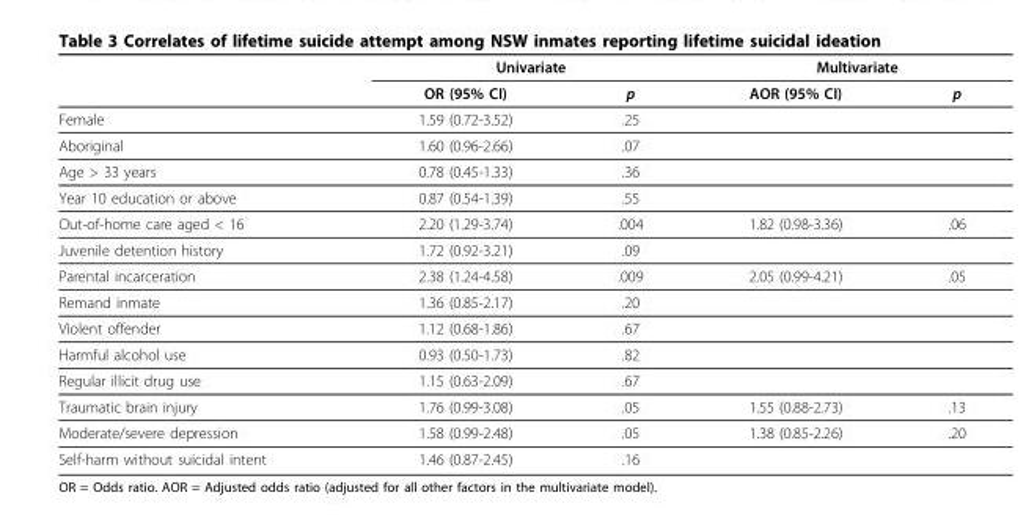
<table><thead><tr><td rowspan="2"></td><td colspan="2">Univariate</td><td colspan="2">Multivariate</td></tr><tr><td>OR (95% CI)</td><td>p</td><td>AOR (95% CI)</td><td>p</td></tr></thead><tbody><tr><td>Female</td><td>1.59 (0.72-3.52)</td><td>.25</td><td></td><td></td></tr><tr><td>Aboriginal</td><td>1.60 (0.96-2.66)</td><td>.07</td><td></td><td></td></tr><tr><td>Age &gt; 33 years</td><td>0.78 (0.45-1.33)</td><td>.36</td><td></td><td></td></tr><tr><td>Year 10 education or above</td><td>0.87 (0.54-1.39)</td><td>.55</td><td></td><td></td></tr><tr><td>Out-of-home care aged &lt; 16</td><td>2.20 (1.29-3.74)</td><td>.004</td><td>1.82 (0.98-3.36)</td><td>.06</td></tr><tr><td>Juvenile detention history</td><td>1.72 (0.92-3.21)</td><td>.09</td><td></td><td></td></tr><tr><td>Parental incarceration</td><td>2.38 (1.24-4.58)</td><td>.009</td><td>2.05 (0.99-4.21)</td><td>.05</td></tr><tr><td>Remand inmate</td><td>1.36 (0.85-2.17)</td><td>.20</td><td></td><td></td></tr><tr><td>Violent offender</td><td>1.12 (0.68-1.86)</td><td>.67</td><td></td><td></td></tr><tr><td>Harmful alcohol use</td><td>0.93 (0.50-1.73)</td><td>.82</td><td></td><td></td></tr><tr><td>Regular illicit drug use</td><td>1.15 (0.63-2.09)</td><td>.67</td><td></td><td></td></tr><tr><td>Traumatic brain injury</td><td>1.76 (0.99-3.08)</td><td>.05</td><td>1.55 (0.88-2.73)</td><td>.13</td></tr><tr><td>Moderate/severe depression</td><td>1.58 (0.99-2.48)</td><td>.05</td><td>1.38 (0.85-2.26)</td><td>.20</td></tr><tr><td>Self-harm without suicidal intent</td><td>1.46 (0.87-2.45)</td><td>.16</td><td></td><td></td></tr></tbody></table>